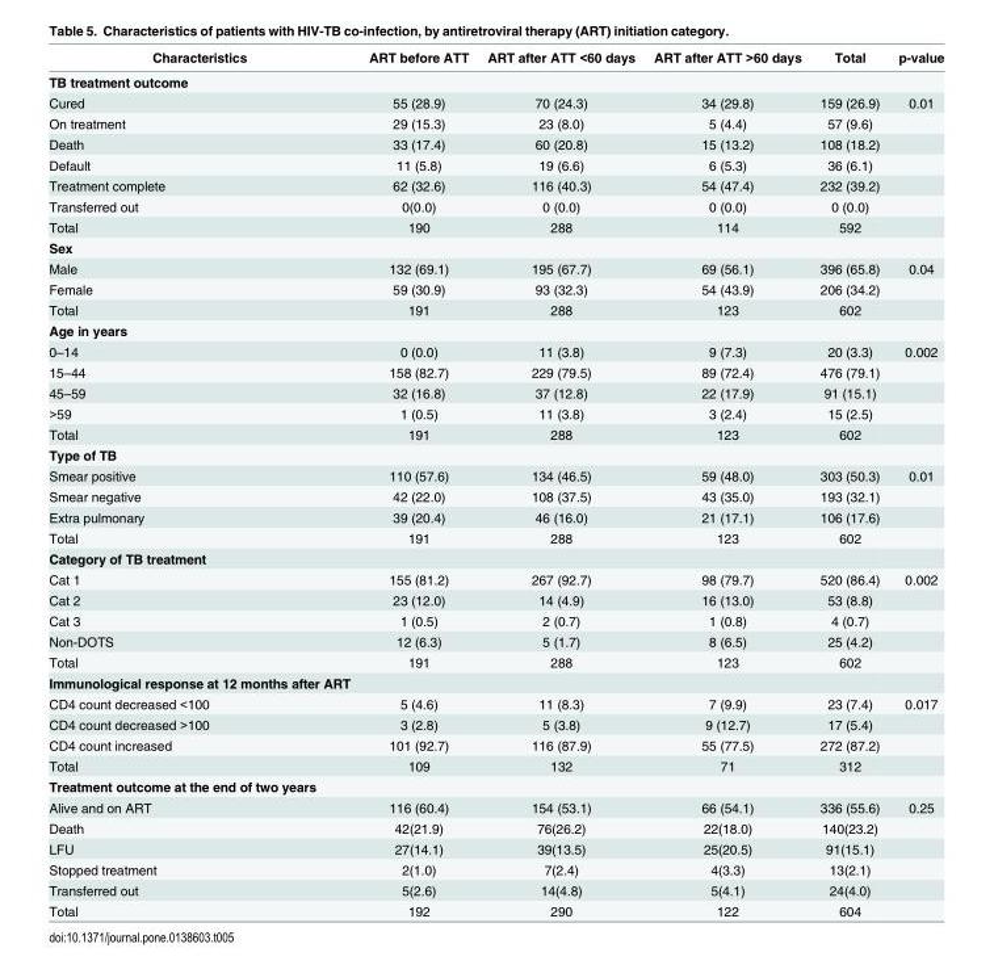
<table><thead><tr><td>Characteristics</td><td>ART before ATT</td><td>ART after ATT &lt;60 days</td><td>ART after ATT &gt;60 days</td><td>Total</td><td>p-value</td></tr></thead><tbody><tr><td colspan="6">TB treatment outcome</td></tr><tr><td>Cured</td><td>55 (28.9)</td><td>70 (24.3)</td><td>34 (29.8)</td><td>159 (26.9)</td><td>0.01</td></tr><tr><td>On treatment</td><td>29 (15.3)</td><td>23 (8.0)</td><td>5 (4.4)</td><td>57 (9.6)</td><td></td></tr><tr><td>Death</td><td>33 (17.4)</td><td>60 (20.8)</td><td>15 (13.2)</td><td>108 (18.2)</td><td></td></tr><tr><td>Default</td><td>11 (5.8)</td><td>19 (6.6)</td><td>6 (5.3)</td><td>36 (6.1)</td><td></td></tr><tr><td>Treatment complete</td><td>62 (32.6)</td><td>116 (40.3)</td><td>54 (47.4)</td><td>232 (39.2)</td><td></td></tr><tr><td>Transferred out</td><td>0(0.0)</td><td>0 (0.0)</td><td>0 (0.0)</td><td>0 (0.0)</td><td></td></tr><tr><td>Total</td><td>190</td><td>288</td><td>114</td><td>592</td><td></td></tr><tr><td colspan="6">Sex</td></tr><tr><td>Male</td><td>132 (69.1)</td><td>195 (67.7)</td><td>69 (56.1)</td><td>396 (65.8)</td><td>0.04</td></tr><tr><td>Female</td><td>59 (30.9)</td><td>93 (32.3)</td><td>54 (43.9)</td><td>206 (34.2)</td><td></td></tr><tr><td>Total</td><td>191</td><td>288</td><td>123</td><td>602</td><td></td></tr><tr><td colspan="6">Age in years</td></tr><tr><td>0–14</td><td>0 (0.0)</td><td>11 (3.8)</td><td>9 (7.3)</td><td>20 (3.3)</td><td>0.002</td></tr><tr><td>15–44</td><td>158 (82.7)</td><td>229 (79.5)</td><td>89 (72.4)</td><td>476 (79.1)</td><td></td></tr><tr><td>45–59</td><td>32 (16.8)</td><td>37 (12.8)</td><td>22 (17.9)</td><td>91 (15.1)</td><td></td></tr><tr><td>&gt;59</td><td>1 (0.5)</td><td>11 (3.8)</td><td>3 (2.4)</td><td>15 (2.5)</td><td></td></tr><tr><td>Total</td><td>191</td><td>288</td><td>123</td><td>602</td><td></td></tr><tr><td colspan="6">Type of TB</td></tr><tr><td>Smear positive</td><td>110 (57.6)</td><td>134 (46.5)</td><td>59 (48.0)</td><td>303 (50.3)</td><td>0.01</td></tr><tr><td>Smear negative</td><td>42 (22.0)</td><td>108 (37.5)</td><td>43 (35.0)</td><td>193 (32.1)</td><td></td></tr><tr><td>Extra pulmonary</td><td>39 (20.4)</td><td>46 (16.0)</td><td>21 (17.1)</td><td>106 (17.6)</td><td></td></tr><tr><td>Total</td><td>191</td><td>288</td><td>123</td><td>602</td><td></td></tr><tr><td colspan="6">Category of TB treatment</td></tr><tr><td>Cat 1</td><td>155 (81.2)</td><td>267 (92.7)</td><td>98 (79.7)</td><td>520 (86.4)</td><td>0.002</td></tr><tr><td>Cat 2</td><td>23 (12.0)</td><td>14 (4.9)</td><td>16 (13.0)</td><td>53 (8.8)</td><td></td></tr><tr><td>Cat 3</td><td>1 (0.5)</td><td>2 (0.7)</td><td>1 (0.8)</td><td>4 (0.7)</td><td></td></tr><tr><td>Non-DOTS</td><td>12 (6.3)</td><td>5 (1.7)</td><td>8 (6.5)</td><td>25 (4.2)</td><td></td></tr><tr><td>Total</td><td>191</td><td>288</td><td>123</td><td>602</td><td></td></tr><tr><td colspan="6">Immunological response at 12 months after ART</td></tr><tr><td>CD4 count decreased &lt;100</td><td>5 (4.6)</td><td>11 (8.3)</td><td>7 (9.9)</td><td>23 (7.4)</td><td>0.017</td></tr><tr><td>CD4 count decreased &gt;100</td><td>3 (2.8)</td><td>5 (3.8)</td><td>9 (12.7)</td><td>17 (5.4)</td><td></td></tr><tr><td>CD4 count increased</td><td>101 (92.7)</td><td>116 (87.9)</td><td>55 (77.5)</td><td>272 (87.2)</td><td></td></tr><tr><td>Total</td><td>109</td><td>132</td><td>71</td><td>312</td><td></td></tr><tr><td colspan="6">Treatment outcome at the end of two years</td></tr><tr><td>Alive and on ART</td><td>116 (60.4)</td><td>154 (53.1)</td><td>66 (54.1)</td><td>336 (55.6)</td><td>0.25</td></tr><tr><td>Death</td><td>42(21.9)</td><td>76(26.2)</td><td>22(18.0)</td><td>140(23.2)</td><td></td></tr><tr><td>LFU</td><td>27(14.1)</td><td>39(13.5)</td><td>25(20.5)</td><td>91(15.1)</td><td></td></tr><tr><td>Stopped treatment</td><td>2(1.0)</td><td>7(2.4)</td><td>4(3.3)</td><td>13(2.1)</td><td></td></tr><tr><td>Transferred out</td><td>5(2.6)</td><td>14(4.8)</td><td>5(4.1)</td><td>24(4.0)</td><td></td></tr><tr><td>Total</td><td>192</td><td>290</td><td>122</td><td>604</td><td></td></tr></tbody></table>